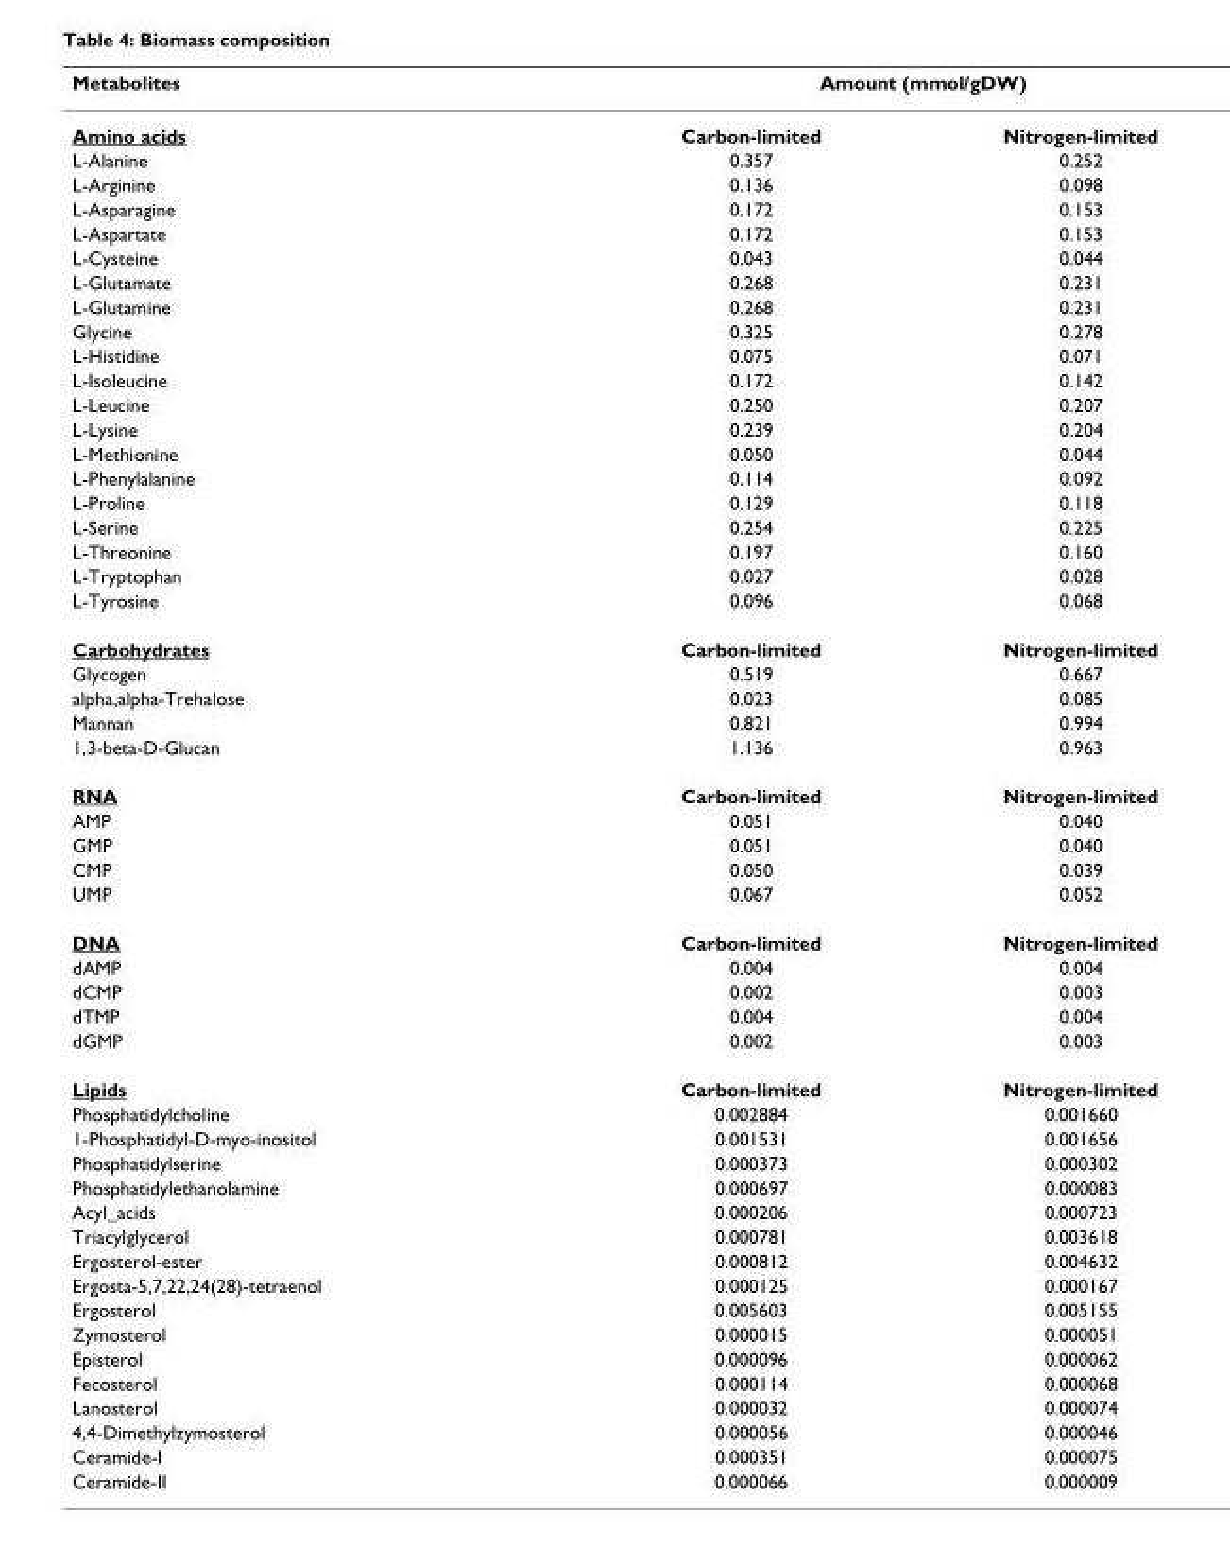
<table><thead><tr><td rowspan="2">Metabolites Amino acids</td><td colspan="2">Amount (mmol/gDW)</td></tr><tr><td>Carbon-limited</td><td>Nitrogen-limited</td></tr></thead><tbody><tr><td>L-Alanine</td><td>0.357</td><td>0.252</td></tr><tr><td>L-Arginine</td><td>0.136</td><td>0.098</td></tr><tr><td>L-Asparagine</td><td>0.172</td><td>0.153</td></tr><tr><td>L-Aspartate</td><td>0.172</td><td>0.153</td></tr><tr><td>L-Cysteine</td><td>0.043</td><td>0.044</td></tr><tr><td>L-Glutamate</td><td>0.268</td><td>0.231</td></tr><tr><td>L-Glutamine</td><td>0.268</td><td>0.231</td></tr><tr><td>Glycine</td><td>0.325</td><td>0.278</td></tr><tr><td>L-Histidine</td><td>0.075</td><td>0.071</td></tr><tr><td>L-Isoleucine</td><td>0.172</td><td>0.142</td></tr><tr><td>L-Leucine</td><td>0.250</td><td>0.207</td></tr><tr><td>L-Lysine</td><td>0.239</td><td>0.204</td></tr><tr><td>L-Methionine</td><td>0.050</td><td>0.044</td></tr><tr><td>L-Phenylalanine</td><td>0.114</td><td>0.092</td></tr><tr><td>L-Proline</td><td>0.129</td><td>0.118</td></tr><tr><td>L-Serine</td><td>0.254</td><td>0.225</td></tr><tr><td>L-Threonine</td><td>0.197</td><td>0.160</td></tr><tr><td>L-Tryptophan</td><td>0.027</td><td>0.028</td></tr><tr><td>L-Tyrosine</td><td>0.096</td><td>0.068</td></tr><tr><td>Carbohydrates</td><td>Carbon-limited</td><td>Nitrogen-limited</td></tr><tr><td>Glycogen</td><td>0.519</td><td>0.667</td></tr><tr><td>alpha,alpha-Trehalose</td><td>0.023</td><td>0.085</td></tr><tr><td>Mannan</td><td>0.821</td><td>0.994</td></tr><tr><td>1,3-beta-D-Glucan</td><td>1.136</td><td>0.963</td></tr><tr><td>RNA</td><td>Carbon-limited</td><td>Nitrogen-limited</td></tr><tr><td>AMP</td><td>0.051</td><td>0.040</td></tr><tr><td>GMP</td><td>0.051</td><td>0.040</td></tr><tr><td>CMP</td><td>0.050</td><td>0.039</td></tr><tr><td>UMP</td><td>0.067</td><td>0.052</td></tr><tr><td>DNA</td><td>Carbon-limited</td><td>Nitrogen-limited</td></tr><tr><td>dAMP</td><td>0.004</td><td>0.004</td></tr><tr><td>dCMP</td><td>0.002</td><td>0.003</td></tr><tr><td>dTMP</td><td>0.004</td><td>0.004</td></tr><tr><td>dGMP</td><td>0.002</td><td>0.003</td></tr><tr><td>Lipids</td><td>Carbon-limited</td><td>Nitrogen-limited</td></tr><tr><td>Phosphatidylcholine</td><td>0.002884</td><td>0.001660</td></tr><tr><td>1-Phosphatidyl-D-myo-inositol</td><td>0.001531</td><td>0.001656</td></tr><tr><td>Phosphatidylserine</td><td>0.000373</td><td>0.000302</td></tr><tr><td>Phosphatidylethanolamine</td><td>0.000697</td><td>0.000083</td></tr><tr><td>Acyl_acids</td><td>0.000206</td><td>0.000723</td></tr><tr><td>Triacylglycerol</td><td>0.000781</td><td>0.003618</td></tr><tr><td>Ergosterol-ester</td><td>0.000812</td><td>0.004632</td></tr><tr><td>Ergosta-5,7,22,24(28)-tetraenol</td><td>0.000125</td><td>0.000167</td></tr><tr><td>Ergosterol</td><td>0.005603</td><td>0.005155</td></tr><tr><td>Zymosterol</td><td>0.000015</td><td>0.000051</td></tr><tr><td>Episterol</td><td>0.000096</td><td>0.000062</td></tr><tr><td>Fecosterol</td><td>0.000114</td><td>0.000068</td></tr><tr><td>Lanosterol</td><td>0.000032</td><td>0.000074</td></tr><tr><td>4,4-Dimethylzymosterol</td><td>0.000056</td><td>0.000046</td></tr><tr><td>Ceramide-I</td><td>0.000351</td><td>0.000075</td></tr><tr><td>Ceramide-II</td><td>0.000066</td><td>0.000009</td></tr></tbody></table>